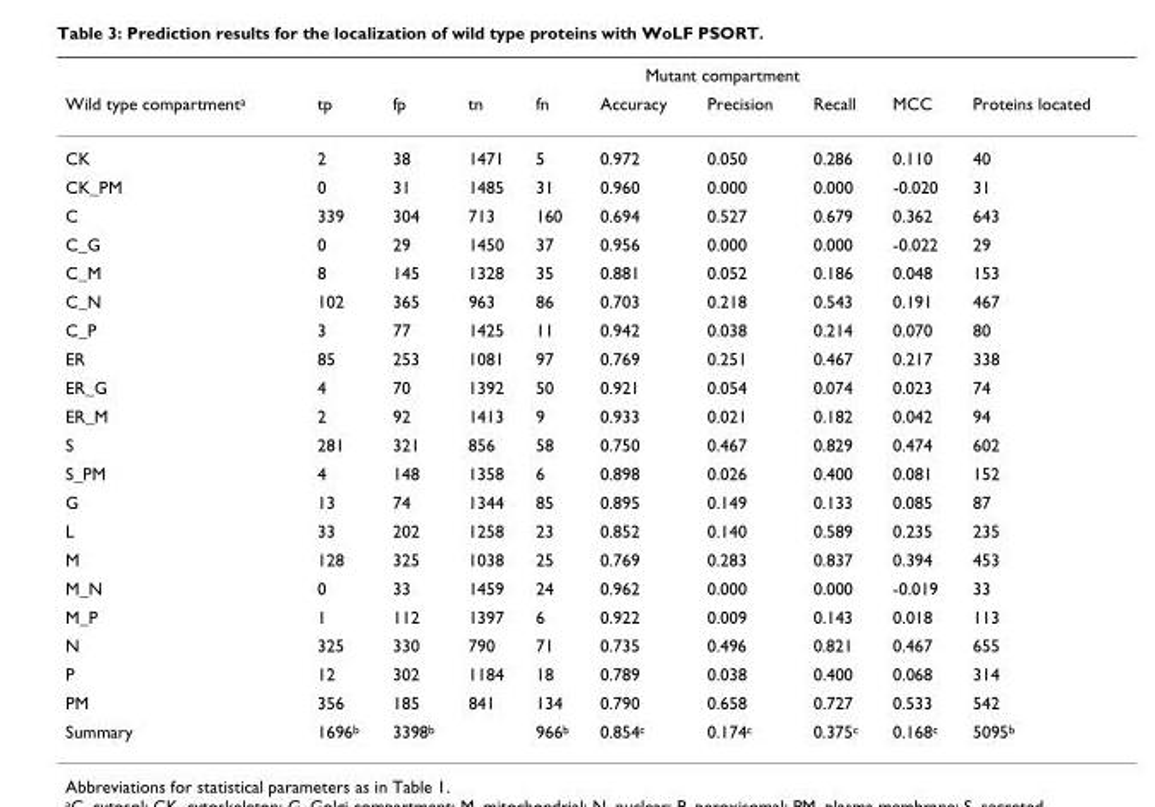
<table><thead><tr><td rowspan="2">Wild type compartment<sup>a</sup></td><td colspan="9">Mutant compartment</td></tr><tr><td>tp</td><td>fp</td><td>tn</td><td>fn</td><td>Accuracy</td><td>Precision</td><td>Recall</td><td>MCC</td><td>Proteins located</td></tr></thead><tbody><tr><td>CK</td><td>2</td><td>38</td><td>1471</td><td>5</td><td>0.972</td><td>0.050</td><td>0.286</td><td>0.110</td><td>40</td></tr><tr><td>CK_PM</td><td>0</td><td>31</td><td>1485</td><td>31</td><td>0.960</td><td>0.000</td><td>0.000</td><td>-0.020</td><td>31</td></tr><tr><td>C</td><td>339</td><td>304</td><td>713</td><td>160</td><td>0.694</td><td>0.527</td><td>0.679</td><td>0.362</td><td>643</td></tr><tr><td>C_G</td><td>0</td><td>29</td><td>1450</td><td>37</td><td>0.956</td><td>0.000</td><td>0.000</td><td>-0.022</td><td>29</td></tr><tr><td>C_M</td><td>8</td><td>145</td><td>1328</td><td>35</td><td>0.881</td><td>0.052</td><td>0.186</td><td>0.048</td><td>153</td></tr><tr><td>C_N</td><td>102</td><td>365</td><td>963</td><td>86</td><td>0.703</td><td>0.218</td><td>0.543</td><td>0.191</td><td>467</td></tr><tr><td>C_P</td><td>3</td><td>77</td><td>1425</td><td>11</td><td>0.942</td><td>0.038</td><td>0.214</td><td>0.070</td><td>80</td></tr><tr><td>ER</td><td>85</td><td>253</td><td>1081</td><td>97</td><td>0.769</td><td>0.251</td><td>0.467</td><td>0.217</td><td>338</td></tr><tr><td>ER_G</td><td>4</td><td>70</td><td>1392</td><td>50</td><td>0.921</td><td>0.054</td><td>0.074</td><td>0.023</td><td>74</td></tr><tr><td>ER_M</td><td>2</td><td>92</td><td>1413</td><td>9</td><td>0.933</td><td>0.021</td><td>0.182</td><td>0.042</td><td>94</td></tr><tr><td>S</td><td>281</td><td>321</td><td>856</td><td>58</td><td>0.750</td><td>0.467</td><td>0.829</td><td>0.474</td><td>602</td></tr><tr><td>S_PM</td><td>4</td><td>148</td><td>1358</td><td>6</td><td>0.898</td><td>0.026</td><td>0.400</td><td>0.081</td><td>152</td></tr><tr><td>G</td><td>13</td><td>74</td><td>1344</td><td>85</td><td>0.895</td><td>0.149</td><td>0.133</td><td>0.085</td><td>87</td></tr><tr><td>L</td><td>33</td><td>202</td><td>1258</td><td>23</td><td>0.852</td><td>0.140</td><td>0.589</td><td>0.235</td><td>235</td></tr><tr><td>M</td><td>128</td><td>325</td><td>1038</td><td>25</td><td>0.769</td><td>0.283</td><td>0.837</td><td>0.394</td><td>453</td></tr><tr><td>M_N</td><td>0</td><td>33</td><td>1459</td><td>24</td><td>0.962</td><td>0.000</td><td>0.000</td><td>-0.019</td><td>33</td></tr><tr><td>M_P</td><td>1</td><td>112</td><td>1397</td><td>6</td><td>0.922</td><td>0.009</td><td>0.143</td><td>0.018</td><td>113</td></tr><tr><td>N</td><td>325</td><td>330</td><td>790</td><td>71</td><td>0.735</td><td>0.496</td><td>0.821</td><td>0.467</td><td>655</td></tr><tr><td>P</td><td>12</td><td>302</td><td>1184</td><td>18</td><td>0.789</td><td>0.038</td><td>0.400</td><td>0.068</td><td>314</td></tr><tr><td>PM</td><td>356</td><td>185</td><td>841</td><td>134</td><td>0.790</td><td>0.658</td><td>0.727</td><td>0.533</td><td>542</td></tr><tr><td>Summary</td><td>1696<sup>b</sup></td><td>3398<sup>b</sup></td><td></td><td>966<sup>b</sup></td><td>0.854<sup>c</sup></td><td>0.174<sup>c</sup></td><td>0.375<sup>c</sup></td><td>0.168<sup>c</sup></td><td>5095<sup>b</sup></td></tr></tbody></table>